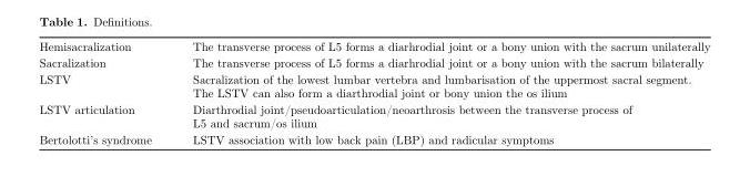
<table><tbody><tr><td>Hemisacralization</td><td>The transverse process of L5 forms a diarhrodial joint or a bony union with the sacrum unilaterally</td></tr><tr><td>Sacralization</td><td>The transverse process of L5 forms a diarhrodial joint or a bony union with the sacrum bilaterally</td></tr><tr><td>LSTV</td><td>Sacralization of the lowest lumbar vertebra and lumbarisation of the uppermost sacral segment. The LSTV can also form a diarthrodial joint or bony union the os ilium</td></tr><tr><td>LSTV articulation</td><td>Diarthrodial joint/pseudoarticulation/neoarthrosis between the transverse process of L5 and sacrum/os ilium</td></tr><tr><td>Bertolotti’s syndrome</td><td>LSTV association with low back pain (LBP) and radicular symptoms</td></tr></tbody></table>